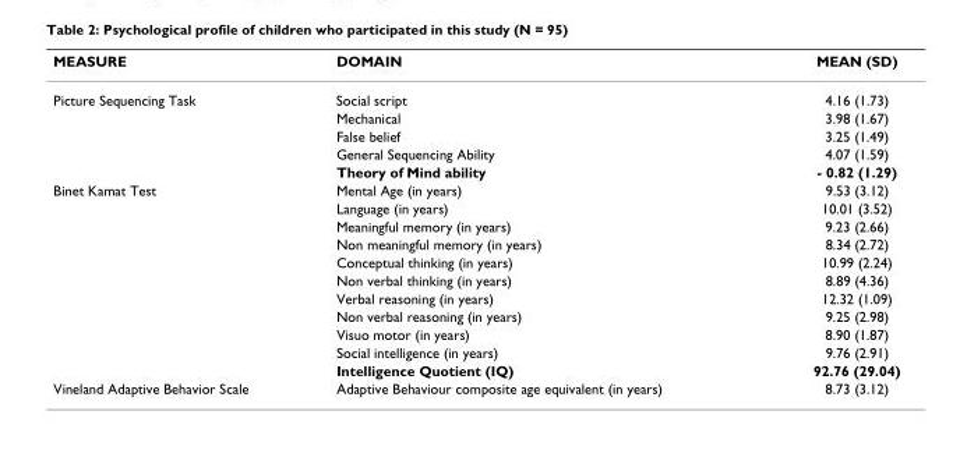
<table><thead><tr><td>MEASURE</td><td>DOMAIN</td><td>MEAN (SD)</td></tr></thead><tbody><tr><td rowspan="5">Picture Sequencing Task</td><td>Social script</td><td>4.16 (1.73)</td></tr><tr><td>Mechanical</td><td>3.98 (1.67)</td></tr><tr><td>False belief</td><td>3.25 (1.49)</td></tr><tr><td>General Sequencing Ability</td><td>4.07 (1.59)</td></tr><tr><td>Theory of Mind ability</td><td>- 0.82 (1.29)</td></tr><tr><td rowspan="11">Binet Kamat Test</td><td>Mental Age (in years)</td><td>9.53 (3.12)</td></tr><tr><td>Language (in years)</td><td>10.01 (3.52)</td></tr><tr><td>Meaningful memory (in years)</td><td>9.23 (2.66)</td></tr><tr><td>Non meaningful memory (in years)</td><td>8.34 (2.72)</td></tr><tr><td>Conceptual thinking (in years)</td><td>10.99 (2.24)</td></tr><tr><td>Non verbal thinking (in years)</td><td>8.89 (4.36)</td></tr><tr><td>Verbal reasoning (in years)</td><td>12.32 (1.09)</td></tr><tr><td>Non verbal reasoning (in years)</td><td>9.25 (2.98)</td></tr><tr><td>Visuo motor (in years)</td><td>8.90 (1.87)</td></tr><tr><td>Social intelligence (in years)</td><td>9.76 (2.91)</td></tr><tr><td>Intelligence Quotient (IQ)</td><td>92.76 (29.04)</td></tr><tr><td>Vineland Adaptive Behavior Scale</td><td>Adaptive Behaviour composite age equivalent (in years)</td><td>8.73 (3.12)</td></tr></tbody></table>